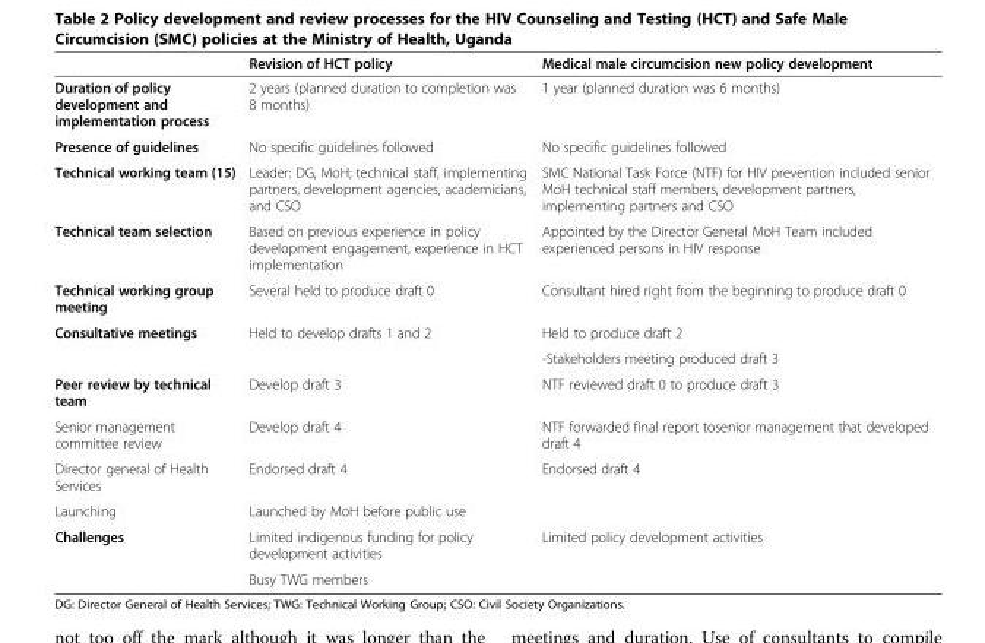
<table><thead><tr><td></td><td>Revision of HCT policy</td><td>Medical male circumcision new policy development</td></tr></thead><tbody><tr><td>Duration of policy development and implementation process</td><td>2 years (planned duration to completion was 8 months)</td><td>1 year (planned duration was 6 months)</td></tr><tr><td>Presence of guidelines</td><td>No specific guidelines followed</td><td>No specific guidelines followed</td></tr><tr><td>Technical working team (15)</td><td>Leader: DG, MoH; technical staff, implementing partners, development agencies, academicians, and CSO</td><td>SMC National Task Force (NTF) for HIV prevention included senior MoH technical staff members, development partners, implementing partners and CSO</td></tr><tr><td>Technical team selection</td><td>Based on previous experience in policy development engagement, experience in HCT implementation</td><td>Appointed by the Director General MoH Team included experienced persons in HIV response</td></tr><tr><td>Technical working group meeting</td><td>Several held to produce draft 0</td><td>Consultant hired right from the beginning to produce draft 0</td></tr><tr><td rowspan="2">Consultative meetings</td><td rowspan="2">Held to develop drafts 1 and 2</td><td>Held to produce draft 2</td></tr><tr><td>-Stakeholders meeting produced draft 3</td></tr><tr><td>Peer review by technical team</td><td>Develop draft 3</td><td>NTF reviewed draft 0 to produce draft 3</td></tr><tr><td>Senior management committee review</td><td>Develop draft 4</td><td>NTF forwarded final report tosenior management that developed draft 4</td></tr><tr><td>Director general of Health Services</td><td>Endorsed draft 4</td><td>Endorsed draft 4</td></tr><tr><td>Launching</td><td>Launched by MoH before public use</td><td></td></tr><tr><td rowspan="2">Challenges</td><td>Limited indigenous funding for policy development activities</td><td>Limited policy development activities</td></tr><tr><td>Busy TWG members</td><td></td></tr></tbody></table>